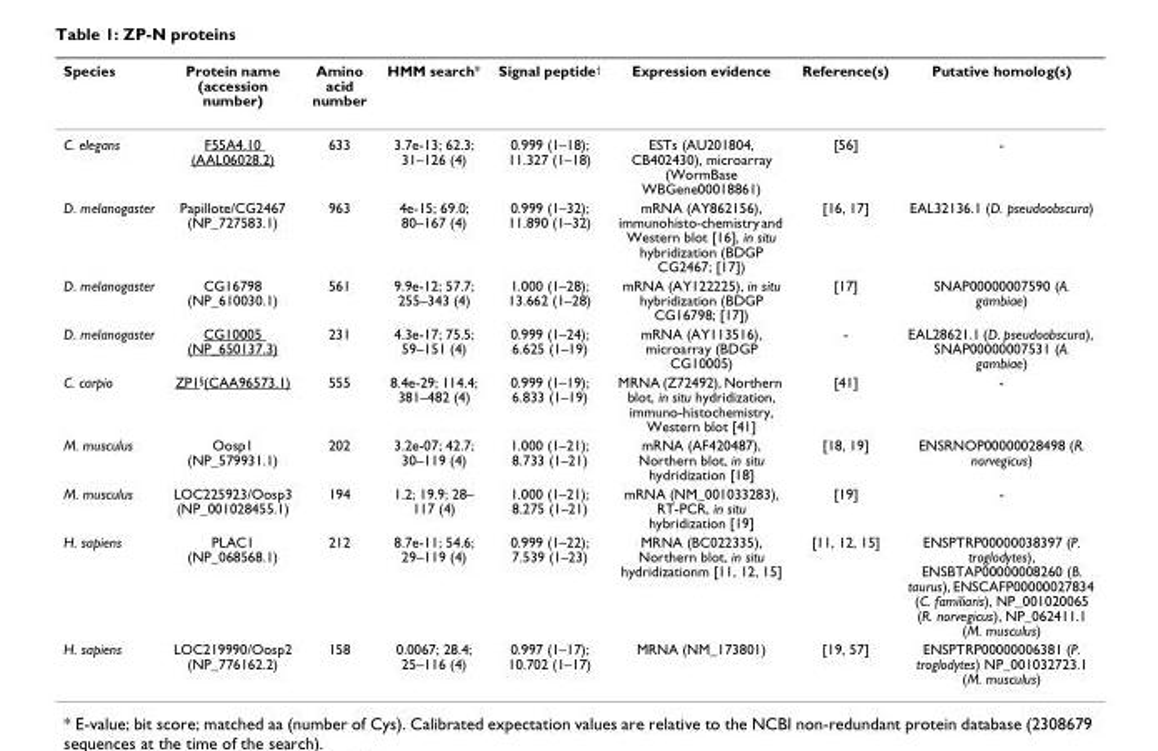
<table><thead><tr><td>Species</td><td>Protein name (accession number)</td><td>Amino acid number</td><td>HMM search*</td><td>Signal peptide<sup>†</sup></td><td>Expression evidence</td><td>Reference(s)</td><td>Putative homolog(s)</td></tr></thead><tbody><tr><td>C. elegans</td><td>F55A4.10 (AAL06028.2)</td><td>633</td><td>3.7e-13; 62.3; 31–126 (4)</td><td>0.999 (1–18); 11.327 (1–18)</td><td>ESTs (AU201804, CB402430), microarray (WormBase WBGene00018861)</td><td>[56]</td><td>-</td></tr><tr><td>D. melanogaster</td><td>Papillote/CG2467 (NP_727583.1)</td><td>963</td><td>4e-15; 69.0; 80–167 (4)</td><td>0.999 (1–32); 11.890 (1–32)</td><td>mRNA (AY862156), immunohisto-chemistry and Western blot [16], in situ hybridization (BDGP CG2467; [17])</td><td>[16, 17]</td><td>EAL32136.1 (D. pseudoobscura)</td></tr><tr><td>D. melanogaster</td><td>CG16798 (NP_610030.1)</td><td>561</td><td>9.9e-12; 57.7; 255–343 (4)</td><td>1.000 (1–28); 13.662 (1–28)</td><td>mRNA (AY122225), in situ hybridization (BDGP CG16798; [17])</td><td>[17]</td><td>SNAP00000007590 (A. gambiae)</td></tr><tr><td>D. melanogaster</td><td>CG10005 (NP_650137.3)</td><td>231</td><td>4.3e-17; 75.5; 59–151 (4)</td><td>0.999 (1–24); 6.625 (1–19)</td><td>mRNA (AY113516), microarray (BDGP CG10005)</td><td>-</td><td>EAL28621.1 (D. pseudoobscura), SNAP00000007531 (A. gambiae)</td></tr><tr><td>C. carpio</td><td>ZP1<sup>§</sup>(CAA96573.1)</td><td>555</td><td>8.4e-29; 114.4; 381–482 (4)</td><td>0.999 (1–19); 6.833 (1–19)</td><td>MRNA (Z72492), Northern blot, in situ hydridization, immuno-histochemistry, Western blot [41]</td><td>[41]</td><td>-</td></tr><tr><td>M. musculus</td><td>Oosp1 (NP_579931.1)</td><td>202</td><td>3.2e-07; 42.7; 30–119 (4)</td><td>1.000 (1–21); 8.733 (1–21)</td><td>mRNA (AF420487), Northern blot, in situ hydridization [18]</td><td>[18, 19]</td><td>ENSRNOP00000028498 (R. norvegicus)</td></tr><tr><td>M. musculus</td><td>LOC225923/Oosp3 (NP_001028455.1)</td><td>194</td><td>1.2; 19.9; 28– 117 (4)</td><td>1.000 (1–21); 8.275 (1–21)</td><td>mRNA (NM_001033283), RT-PCR, in situ hybridization [19]</td><td>[19]</td><td>-</td></tr><tr><td>H. sapiens</td><td>PLAC1 (NP_068568.1)</td><td>212</td><td>8.7e-11; 54.6; 29–119 (4)</td><td>0.999 (1–22); 7.539 (1–23)</td><td>MRNA (BC022335), Northern blot, in situ hydridizationm [11, 12, 15]</td><td>[11, 12, 15]</td><td>ENSPTRP00000038397 (P. troglodytes), ENSBTAP00000008260 (B. taurus), ENSCAFP00000027834 (C. familiaris), NP_001020065 (R. norvegicus), NP_062411.1 (M. musculus)</td></tr><tr><td>H. sapiens</td><td>LOC219990/Oosp2 (NP_776162.2)</td><td>158</td><td>0.0067; 28.4; 25–116 (4)</td><td>0.997 (1–17); 10.702 (1–17)</td><td>MRNA (NM_173801)</td><td>[19, 57]</td><td>ENSPTRP00000006381 (P. troglodytes) NP_001032723.1 (M. musculus)</td></tr></tbody></table>